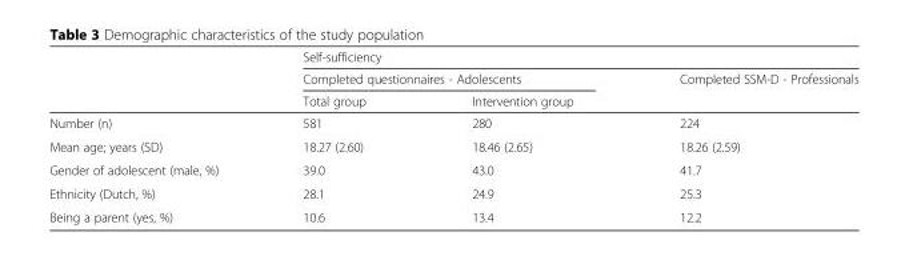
<table><thead><tr><td rowspan="3"></td><td colspan="3">Self-sufficiency</td></tr><tr><td colspan="2">Completed questionnaires - Adolescents</td><td rowspan="2">Completed SSM-D - Professionals</td></tr><tr><td>Total group</td><td>Intervention group</td></tr></thead><tbody><tr><td>Number (n)</td><td>581</td><td>280</td><td>224</td></tr><tr><td>Mean age; years (SD)</td><td>18.27 (2.60)</td><td>18.46 (2.65)</td><td>18.26 (2.59)</td></tr><tr><td>Gender of adolescent (male, %)</td><td>39.0</td><td>43.0</td><td>41.7</td></tr><tr><td>Ethnicity (Dutch, %)</td><td>28.1</td><td>24.9</td><td>25.3</td></tr><tr><td>Being a parent (yes, %)</td><td>10.6</td><td>13.4</td><td>12.2</td></tr></tbody></table>